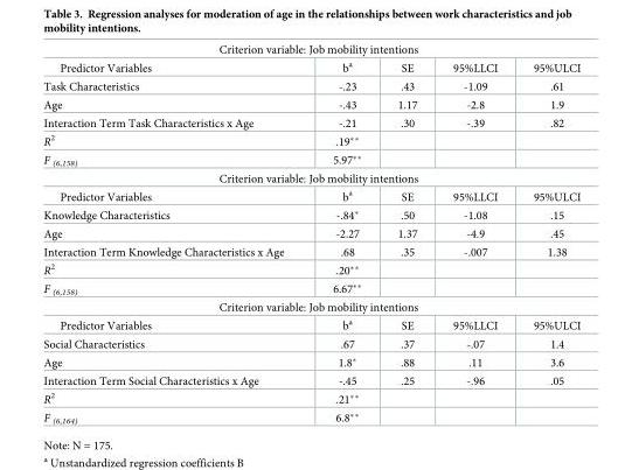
<table><tbody><tr><td colspan="5">Criterion variable: Job mobility intentions</td></tr><tr><td>Predictor Variables</td><td>b<sup>a</sup></td><td>SE</td><td>95%LLCI</td><td>95%ULCI</td></tr><tr><td>Task Characteristics</td><td>-.23</td><td>.43</td><td>-1.09</td><td>.61</td></tr><tr><td>Age</td><td>-.43</td><td>1.17</td><td>-2.8</td><td>1.9</td></tr><tr><td>Interaction Term Task Characteristics x Age</td><td>-.21</td><td>.30</td><td>-.39</td><td>.82</td></tr><tr><td>R<sup>2</sup></td><td>.19**</td><td></td><td></td><td></td></tr><tr><td>F <sub>(6,158)</sub></td><td>5.97**</td><td></td><td></td><td></td></tr><tr><td colspan="5">Criterion variable: Job mobility intentions</td></tr><tr><td>Predictor Variables</td><td>b<sup>a</sup></td><td>SE</td><td>95%LLCI</td><td>95%ULCI</td></tr><tr><td>Knowledge Characteristics</td><td>-.84*</td><td>.50</td><td>-1.08</td><td>.15</td></tr><tr><td>Age</td><td>-2.27</td><td>1.37</td><td>-4.9</td><td>.45</td></tr><tr><td>Interaction Term Knowledge Characteristics x Age</td><td>.68</td><td>.35</td><td>-.007</td><td>1.38</td></tr><tr><td>R<sup>2</sup></td><td>.20**</td><td></td><td></td><td></td></tr><tr><td>F <sub>(6,158)</sub></td><td>6.67**</td><td></td><td></td><td></td></tr><tr><td colspan="5">Criterion variable: Job mobility intentions</td></tr><tr><td>Predictor Variables</td><td>b<sup>a</sup></td><td>SE</td><td>95%LLCI</td><td>95%ULCI</td></tr><tr><td>Social Characteristics</td><td>.67</td><td>.37</td><td>-.07</td><td>1.4</td></tr><tr><td>Age</td><td>1.8*</td><td>.88</td><td>.11</td><td>3.6</td></tr><tr><td>Interaction Term Social Characteristics x Age</td><td>-.45</td><td>.25</td><td>-.96</td><td>.05</td></tr><tr><td>R<sup>2</sup></td><td>.21**</td><td></td><td></td><td></td></tr><tr><td>F <sub>(6,164)</sub></td><td>6.8**</td><td></td><td></td><td></td></tr></tbody></table>